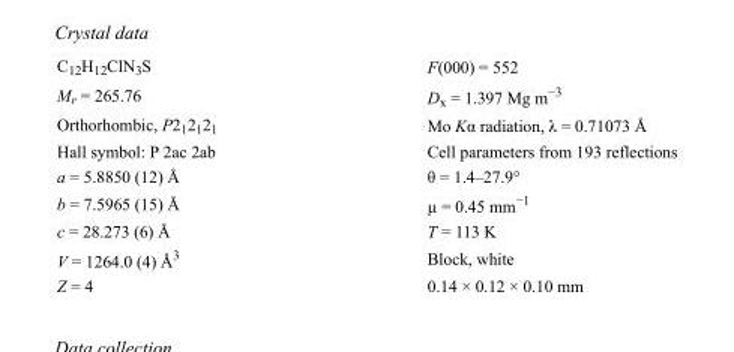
<table><tbody><tr><td>C<sub>12</sub>H<sub>12</sub>ClN<sub>3</sub>S</td><td>F(000) = 552</td></tr><tr><td>M<sub>r</sub> = 265.76</td><td>D<sub>x</sub> = 1.397 Mg m<sup>−3</sup></td></tr><tr><td>Orthorhombic, P2<sub>1</sub>2<sub>1</sub>2<sub>1</sub></td><td>Mo Kα radiation, λ = 0.71073 Å</td></tr><tr><td>Hall symbol: P 2ac 2ab</td><td>Cell parameters from 193 reflections</td></tr><tr><td>a = 5.8850 (12) Å</td><td>θ = 1.4–27.9°</td></tr><tr><td>b = 7.5965 (15) Å</td><td>µ = 0.45 mm<sup>−1</sup></td></tr><tr><td>c = 28.273 (6) Å</td><td>T = 113 K</td></tr><tr><td>V = 1264.0 (4) Å<sup>3</sup></td><td>Block, white</td></tr><tr><td>Z = 4</td><td>0.14 × 0.12 × 0.10 mm</td></tr></tbody></table>